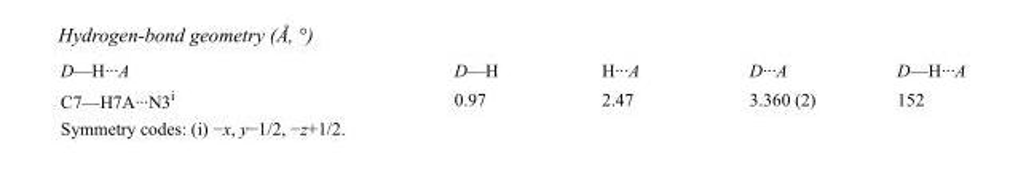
<table><tbody><tr><td>D—H···A</td><td>D—H</td><td>H···A</td><td>D···A</td><td>D—H···A</td></tr><tr><td>C7—H7A···N3<sup>i</sup></td><td>0.97</td><td>2.47</td><td>3.360 (2)</td><td>152</td></tr></tbody></table>